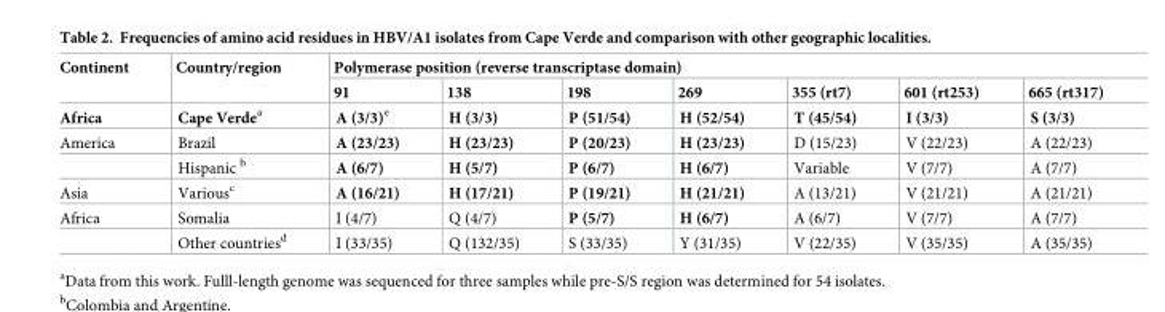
<table><thead><tr><td rowspan="2">Continent</td><td rowspan="2">Country/region</td><td colspan="7">Polymerase position (reverse transcriptase domain)</td></tr><tr><td>91</td><td>138</td><td>198</td><td>269</td><td>355 (rt7)</td><td>601 (rt253)</td><td>665 (rt317)</td></tr></thead><tbody><tr><td>Africa</td><td>Cape Verde<sup>a</sup></td><td>A (3/3)<sup>e</sup></td><td>H (3/3)</td><td>P (51/54)</td><td>H (52/54)</td><td>T (45/54)</td><td>I (3/3)</td><td>S (3/3)</td></tr><tr><td rowspan="2">America</td><td>Brazil</td><td>A (23/23)</td><td>H (23/23)</td><td>P (20/23)</td><td>H (23/23)</td><td>D (15/23)</td><td>V (22/23)</td><td>A (22/23)</td></tr><tr><td>Hispanic <sup>b</sup></td><td>A (6/7)</td><td>H (5/7)</td><td>P (6/7)</td><td>H (6/7)</td><td>Variable</td><td>V (7/7)</td><td>A (7/7)</td></tr><tr><td>Asia</td><td>Various<sup>c</sup></td><td>A (16/21)</td><td>H (17/21)</td><td>P (19/21)</td><td>H (21/21)</td><td>A (13/21)</td><td>V (21/21)</td><td>A (21/21)</td></tr><tr><td rowspan="2">Africa</td><td>Somalia</td><td>I (4/7)</td><td>Q (4/7)</td><td>P (5/7)</td><td>H (6/7)</td><td>A (6/7)</td><td>V (7/7)</td><td>A (7/7)</td></tr><tr><td>Other countries<sup>d</sup></td><td>I (33/35)</td><td>Q (132/35)</td><td>S (33/35)</td><td>Y (31/35)</td><td>V (22/35)</td><td>V (35/35)</td><td>A (35/35)</td></tr></tbody></table>